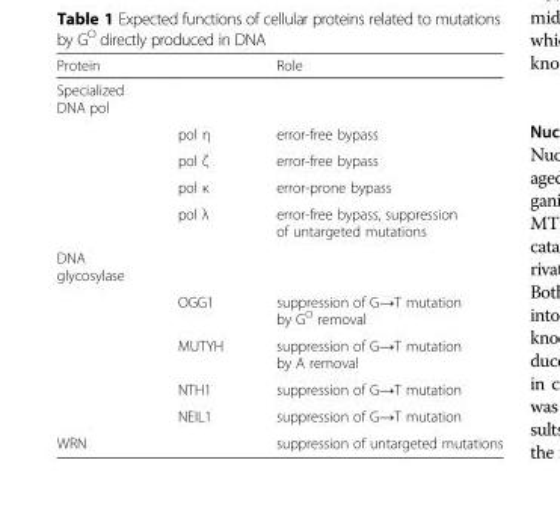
<table><thead><tr><td>Protein</td><td></td><td>Role</td></tr></thead><tbody><tr><td colspan="3">Specialized DNA pol</td></tr><tr><td></td><td>pol η</td><td>error-free bypass</td></tr><tr><td></td><td>pol ζ</td><td>error-free bypass</td></tr><tr><td></td><td>pol κ</td><td>error-prone bypass</td></tr><tr><td></td><td>pol λ</td><td>error-free bypass, suppression of untargeted mutations</td></tr><tr><td colspan="3">DNA glycosylase</td></tr><tr><td></td><td>OGG1</td><td>suppression of G→T mutation by G<sup>O</sup> removal</td></tr><tr><td></td><td>MUTYH</td><td>suppression of G→T mutation by A removal</td></tr><tr><td></td><td>NTH1</td><td>suppression of G→T mutation</td></tr><tr><td></td><td>NEIL1</td><td>suppression of G→T mutation</td></tr><tr><td>WRN</td><td></td><td>suppression of untargeted mutations</td></tr></tbody></table>